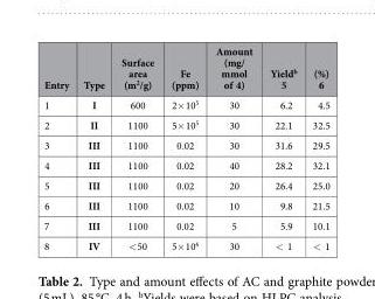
<table><thead><tr><td>Entry</td><td>Type</td><td>Surface area (m<sup>2</sup>/g)</td><td>Fe (ppm)</td><td>Amount (mg/ mmol of 4)</td><td>Yield<sup>b</sup> 5</td><td>(%) 6</td></tr></thead><tbody><tr><td>1</td><td>I</td><td>600</td><td>2× 10<sup>5</sup></td><td>30</td><td>6.2</td><td>4.5</td></tr><tr><td>2</td><td>II</td><td>1100</td><td>5× 10<sup>5</sup></td><td>30</td><td>22.1</td><td>32.5</td></tr><tr><td>3</td><td>III</td><td>1100</td><td>0.02</td><td>30</td><td>31.6</td><td>29.5</td></tr><tr><td>4</td><td>III</td><td>1100</td><td>0.02</td><td>40</td><td>28.2</td><td>32.1</td></tr><tr><td>5</td><td>III</td><td>1100</td><td>0.02</td><td>20</td><td>26.4</td><td>25.0</td></tr><tr><td>6</td><td>III</td><td>1100</td><td>0.02</td><td>10</td><td>9.8</td><td>21.5</td></tr><tr><td>7</td><td>III</td><td>1100</td><td>0.02</td><td>5</td><td>5.9</td><td>10.1</td></tr><tr><td>8</td><td>IV</td><td>&lt; 50</td><td>5× 10<sup>6</sup></td><td>30</td><td>&lt; 1</td><td>&lt; 1</td></tr></tbody></table>